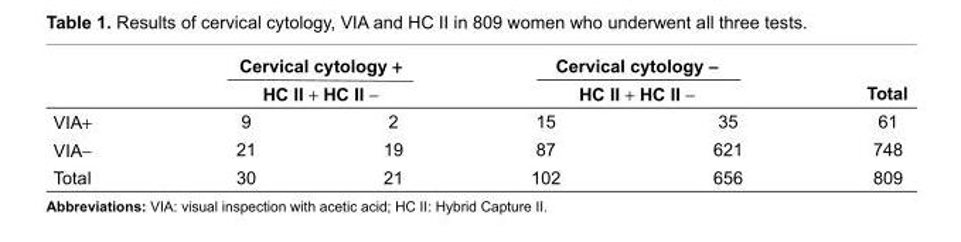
<table><thead><tr><td rowspan="2"></td><td colspan="2">Cervical cytology +</td><td colspan="2">Cervical cytology −</td><td rowspan="2">Total</td></tr><tr><td>HC II +</td><td>HC II −</td><td>HC II +</td><td>HC II −</td></tr></thead><tbody><tr><td>VIA+</td><td>9</td><td>2</td><td>15</td><td>35</td><td>61</td></tr><tr><td>VIA−</td><td>21</td><td>19</td><td>87</td><td>621</td><td>748</td></tr><tr><td>Total</td><td>30</td><td>21</td><td>102</td><td>656</td><td>809</td></tr></tbody></table>